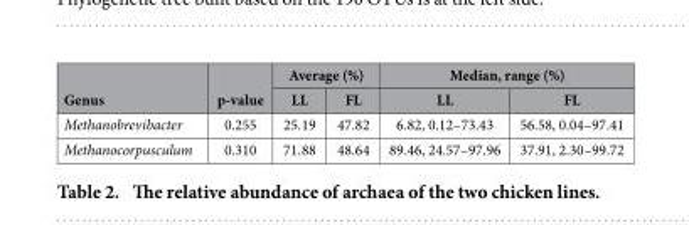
<table><thead><tr><td rowspan="2">Genus</td><td rowspan="2">p-value</td><td colspan="2">Average (%)</td><td colspan="2">Median, range (%)</td></tr><tr><td>LL</td><td>FL</td><td>LL</td><td>FL</td></tr></thead><tbody><tr><td>Methanobrevibacter</td><td>0.255</td><td>25.19</td><td>47.82</td><td>6.82, 0.12–73.43</td><td>56.58, 0.04–97.41</td></tr><tr><td>Methanocorpusculum</td><td>0.310</td><td>71.88</td><td>48.64</td><td>89.46, 24.57–97.96</td><td>37.91, 2.30–99.72</td></tr></tbody></table>